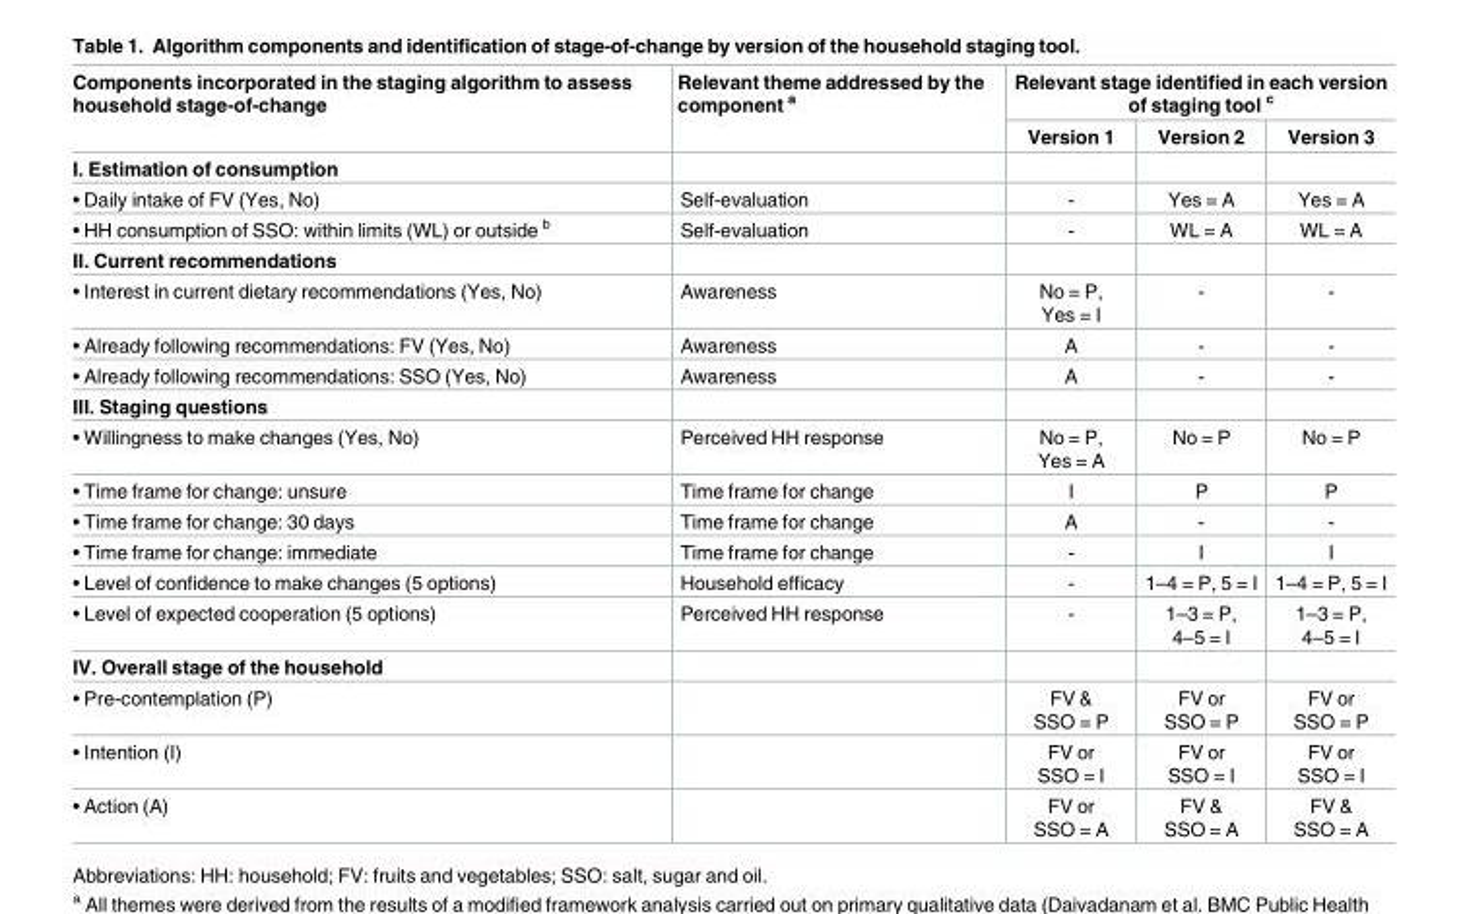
<table><thead><tr><td rowspan="2">Components incorporated in the staging algorithm to assess household stage-of-change</td><td rowspan="2">Relevant theme addressed by the component <sup>a</sup></td><td colspan="3">Relevant stage identified in each version of staging tool <sup>c</sup></td></tr><tr><td>Version 1</td><td>Version 2</td><td>Version 3</td></tr></thead><tbody><tr><td colspan="5">I. Estimation of consumption</td></tr><tr><td>• Daily intake of FV (Yes, No)</td><td>Self-evaluation</td><td>-</td><td>Yes = A</td><td>Yes = A</td></tr><tr><td>• HH consumption of SSO: within limits (WL) or outside <sup>b</sup></td><td>Self-evaluation</td><td>-</td><td>WL = A</td><td>WL = A</td></tr><tr><td colspan="5">II. Current recommendations</td></tr><tr><td>• Interest in current dietary recommendations (Yes, No)</td><td>Awareness</td><td>No = P, Yes = I</td><td>-</td><td>-</td></tr><tr><td>• Already following recommendations: FV (Yes, No)</td><td>Awareness</td><td>A</td><td>-</td><td>-</td></tr><tr><td>• Already following recommendations: SSO (Yes, No)</td><td>Awareness</td><td>A</td><td>-</td><td>-</td></tr><tr><td colspan="5">III. Staging questions</td></tr><tr><td>• Willingness to make changes (Yes, No)</td><td>Perceived HH response</td><td>No = P, Yes = A</td><td>No = P</td><td>No = P</td></tr><tr><td>• Time frame for change: unsure</td><td>Time frame for change</td><td>I</td><td>P</td><td>P</td></tr><tr><td>• Time frame for change: 30 days</td><td>Time frame for change</td><td>A</td><td>-</td><td>-</td></tr><tr><td>• Time frame for change: immediate</td><td>Time frame for change</td><td>-</td><td>I</td><td>I</td></tr><tr><td>• Level of confidence to make changes (5 options)</td><td>Household efficacy</td><td>-</td><td>1–4 = P, 5 = I</td><td>1–4 = P, 5 = I</td></tr><tr><td>• Level of expected cooperation (5 options)</td><td>Perceived HH response</td><td>-</td><td>1–3 = P, 4–5 = I</td><td>1–3 = P, 4–5 = I</td></tr><tr><td colspan="5">IV. Overall stage of the household</td></tr><tr><td>• Pre-contemplation (P)</td><td></td><td>FV &amp; SSO = P</td><td>FV or SSO = P</td><td>FV or SSO = P</td></tr><tr><td>• Intention (I)</td><td></td><td>FV or SSO = I</td><td>FV or SSO = I</td><td>FV or SSO = I</td></tr><tr><td>• Action (A)</td><td></td><td>FV or SSO = A</td><td>FV &amp; SSO = A</td><td>FV &amp; SSO = A</td></tr></tbody></table>